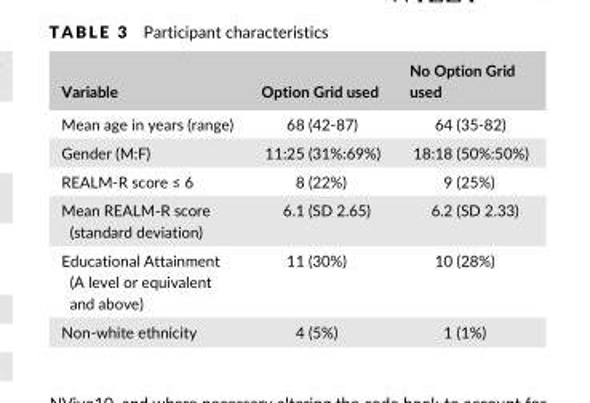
<table><thead><tr><td>Variable</td><td>Option Grid used</td><td>No Option Grid used</td></tr></thead><tbody><tr><td>Mean age in years (range)</td><td>68 (42- 87)</td><td>64 (35- 82)</td></tr><tr><td>Gender (M:F)</td><td>11:25 (31%:69%)</td><td>18:18 (50%:50%)</td></tr><tr><td>REALM- R score ≤ 6</td><td>8 (22%)</td><td>9 (25%)</td></tr><tr><td>Mean REALM- R score (standard deviation)</td><td>6.1 (SD 2.65)</td><td>6.2 (SD 2.33)</td></tr><tr><td>Educational Attainment (A level or equivalent and above)</td><td>11 (30%)</td><td>10 (28%)</td></tr><tr><td>Non- white ethnicity</td><td>4 (5%)</td><td>1 (1%)</td></tr></tbody></table>